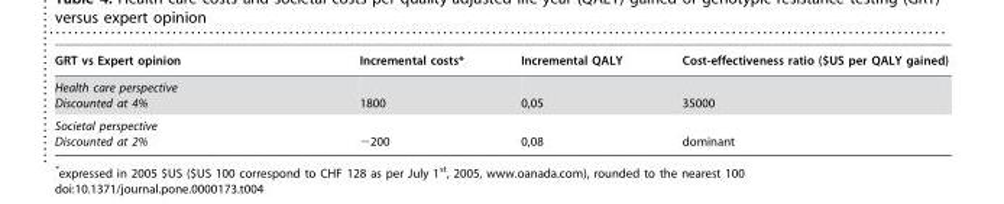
<table><thead><tr><td>GRT vs Expert opinion</td><td>Incremental costs*</td><td>Incremental QALY</td><td>Cost-effectiveness ratio ($US per QALY gained)</td></tr></thead><tbody><tr><td>Health care perspective Discounted at 4%</td><td>1800</td><td>0,05</td><td>35000</td></tr><tr><td>Societal perspective Discounted at 2%</td><td>−200</td><td>0,08</td><td>dominant</td></tr></tbody></table>